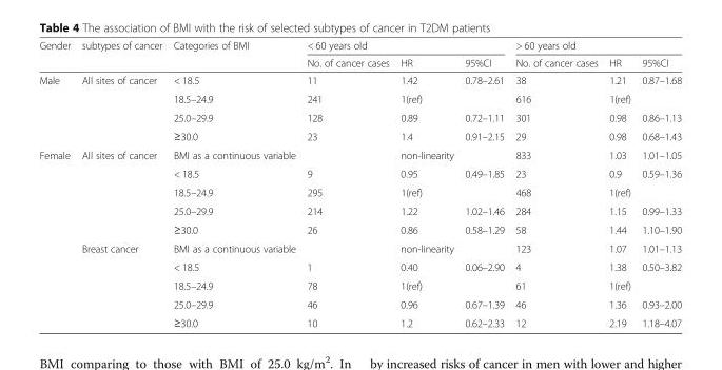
<table><thead><tr><td rowspan="2">Gender</td><td rowspan="2">subtypes of cancer</td><td rowspan="2">Categories of BMI</td><td colspan="3">&lt; 60 years old</td><td colspan="3">&gt; 60 years old</td></tr><tr><td>No. of cancer cases</td><td>HR</td><td>95%CI</td><td>No. of cancer cases</td><td>HR</td><td>95%CI</td></tr></thead><tbody><tr><td rowspan="4">Male</td><td rowspan="4">All sites of cancer</td><td>&lt; 18.5</td><td>11</td><td>1.42</td><td>0.78–2.61</td><td>38</td><td>1.21</td><td>0.87–1.68</td></tr><tr><td>18.5–24.9</td><td>241</td><td>1(ref)</td><td></td><td>616</td><td>1(ref)</td><td></td></tr><tr><td>25.0–29.9</td><td>128</td><td>0.89</td><td>0.72–1.11</td><td>301</td><td>0.98</td><td>0.86–1.13</td></tr><tr><td>≥30.0</td><td>23</td><td>1.4</td><td>0.91–2.15</td><td>29</td><td>0.98</td><td>0.68–1.43</td></tr><tr><td rowspan="10">Female</td><td rowspan="5">All sites of cancer</td><td>BMI as a continuous variable</td><td></td><td>non-linearity</td><td></td><td>833</td><td>1.03</td><td>1.01–1.05</td></tr><tr><td>&lt; 18.5</td><td>9</td><td>0.95</td><td>0.49–1.85</td><td>23</td><td>0.9</td><td>0.59–1.36</td></tr><tr><td>18.5–24.9</td><td>295</td><td>1(ref)</td><td></td><td>468</td><td>1(ref)</td><td></td></tr><tr><td>25.0–29.9</td><td>214</td><td>1.22</td><td>1.02–1.46</td><td>284</td><td>1.15</td><td>0.99–1.33</td></tr><tr><td>≥30.0</td><td>26</td><td>0.86</td><td>0.58–1.29</td><td>58</td><td>1.44</td><td>1.10–1.90</td></tr><tr><td rowspan="5">Breast cancer</td><td>BMI as a continuous variable</td><td></td><td>non-linearity</td><td></td><td>123</td><td>1.07</td><td>1.01–1.13</td></tr><tr><td>&lt; 18.5</td><td>1</td><td>0.40</td><td>0.06–2.90</td><td>4</td><td>1.38</td><td>0.50–3.82</td></tr><tr><td>18.5–24.9</td><td>78</td><td>1(ref)</td><td></td><td>61</td><td>1(ref)</td><td></td></tr><tr><td>25.0–29.9</td><td>46</td><td>0.96</td><td>0.67–1.39</td><td>46</td><td>1.36</td><td>0.93–2.00</td></tr><tr><td>≥30.0</td><td>10</td><td>1.2</td><td>0.62–2.33</td><td>12</td><td>2.19</td><td>1.18–4.07</td></tr></tbody></table>